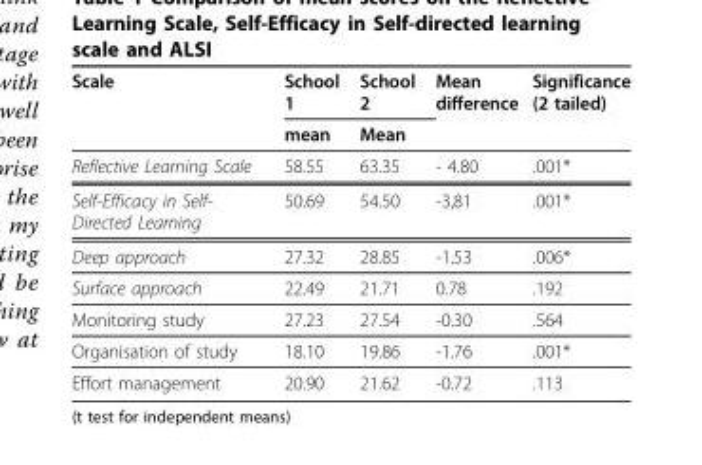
<table><thead><tr><td rowspan="2">Scale</td><td rowspan="2">School 1 mean</td><td rowspan="2">School 2 Mean</td><td rowspan="2">Mean difference</td><td rowspan="2">Significance (2 tailed)</td></tr><tr></tr></thead><tbody><tr><td>Reflective Learning Scale</td><td>58.55</td><td>63.35</td><td>- 4.80</td><td>.001*</td></tr><tr><td>Self-Efficacy in Self- Directed Learning</td><td>50.69</td><td>54.50</td><td>-3,81</td><td>.001*</td></tr><tr><td>Deep approach</td><td>27.32</td><td>28.85</td><td>-1.53</td><td>.006*</td></tr><tr><td>Surface approach</td><td>22.49</td><td>21.71</td><td>0.78</td><td>.192</td></tr><tr><td>Monitoring study</td><td>27.23</td><td>27.54</td><td>-0.30</td><td>.564</td></tr><tr><td>Organisation of study</td><td>18.10</td><td>19.86</td><td>-1.76</td><td>.001*</td></tr><tr><td>Effort management</td><td>20.90</td><td>21.62</td><td>-0.72</td><td>.113</td></tr></tbody></table>